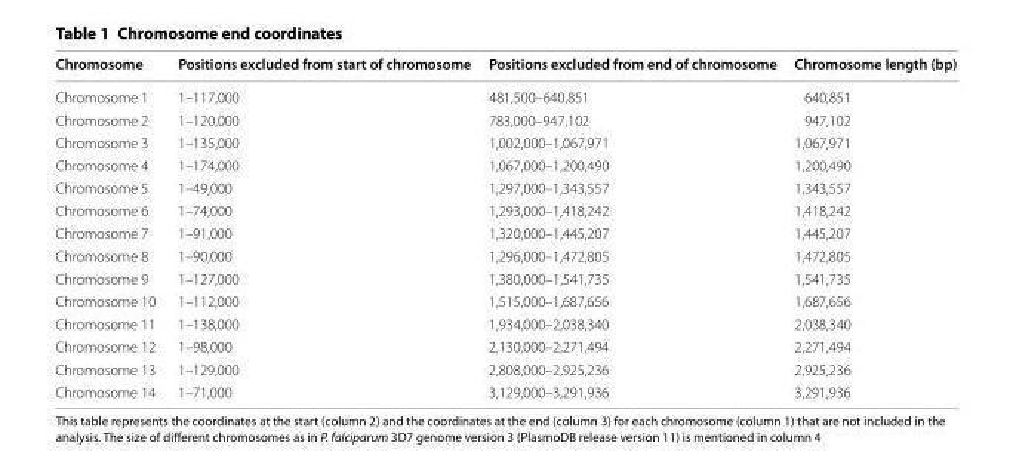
<table><thead><tr><td>Chromosome</td><td>Positions excluded from start of chromosome</td><td>Positions excluded from end of chromosome</td><td>Chromosome length (bp)</td></tr></thead><tbody><tr><td>Chromosome 1</td><td>1–117,000</td><td>481,500–640,851</td><td>640,851</td></tr><tr><td>Chromosome 2</td><td>1–120,000</td><td>783,000–947,102</td><td>947,102</td></tr><tr><td>Chromosome 3</td><td>1–135,000</td><td>1,002,000–1,067,971</td><td>1,067,971</td></tr><tr><td>Chromosome 4</td><td>1–174,000</td><td>1,067,000–1,200,490</td><td>1,200,490</td></tr><tr><td>Chromosome 5</td><td>1–49,000</td><td>1,297,000–1,343,557</td><td>1,343,557</td></tr><tr><td>Chromosome 6</td><td>1–74,000</td><td>1,293,000–1,418,242</td><td>1,418,242</td></tr><tr><td>Chromosome 7</td><td>1–91,000</td><td>1,320,000–1,445,207</td><td>1,445,207</td></tr><tr><td>Chromosome 8</td><td>1–90,000</td><td>1,296,000–1,472,805</td><td>1,472,805</td></tr><tr><td>Chromosome 9</td><td>1–127,000</td><td>1,380,000–1,541,735</td><td>1,541,735</td></tr><tr><td>Chromosome 10</td><td>1–112,000</td><td>1,515,000–1,687,656</td><td>1,687,656</td></tr><tr><td>Chromosome 11</td><td>1–138,000</td><td>1,934,000–2,038,340</td><td>2,038,340</td></tr><tr><td>Chromosome 12</td><td>1–98,000</td><td>2,130,000–2,271,494</td><td>2,271,494</td></tr><tr><td>Chromosome 13</td><td>1–129,000</td><td>2,808,000–2,925,236</td><td>2,925,236</td></tr><tr><td>Chromosome 14</td><td>1–71,000</td><td>3,129,000–3,291,936</td><td>3,291,936</td></tr></tbody></table>